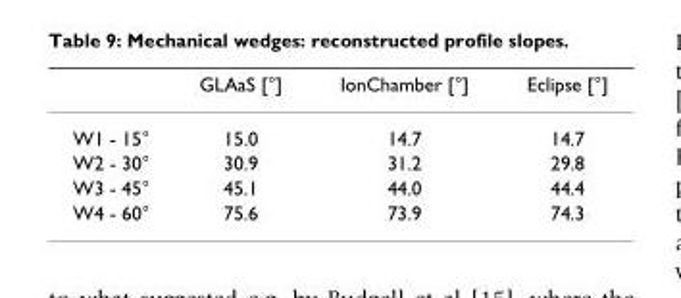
<table><thead><tr><td></td><td>GLAaS [°]</td><td>IonChamber [°]</td><td>Eclipse [°]</td></tr></thead><tbody><tr><td>W1 - 15°</td><td>15.0</td><td>14.7</td><td>14.7</td></tr><tr><td>W2 - 30°</td><td>30.9</td><td>31.2</td><td>29.8</td></tr><tr><td>W3 - 45°</td><td>45.1</td><td>44.0</td><td>44.4</td></tr><tr><td>W4 - 60°</td><td>75.6</td><td>73.9</td><td>74.3</td></tr></tbody></table>